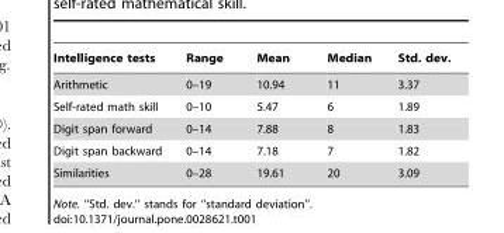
<table><thead><tr><td>Intelligence tests</td><td>Range</td><td>Mean</td><td>Median</td><td>Std. dev.</td></tr></thead><tbody><tr><td>Arithmetic</td><td>0–19</td><td>10.94</td><td>11</td><td>3.37</td></tr><tr><td>Self-rated math skill</td><td>0–10</td><td>5.47</td><td>6</td><td>1.89</td></tr><tr><td>Digit span forward</td><td>0–14</td><td>7.88</td><td>8</td><td>1.83</td></tr><tr><td>Digit span backward</td><td>0–14</td><td>7.18</td><td>7</td><td>1.82</td></tr><tr><td>Similarities</td><td>0–28</td><td>19.61</td><td>20</td><td>3.09</td></tr></tbody></table>